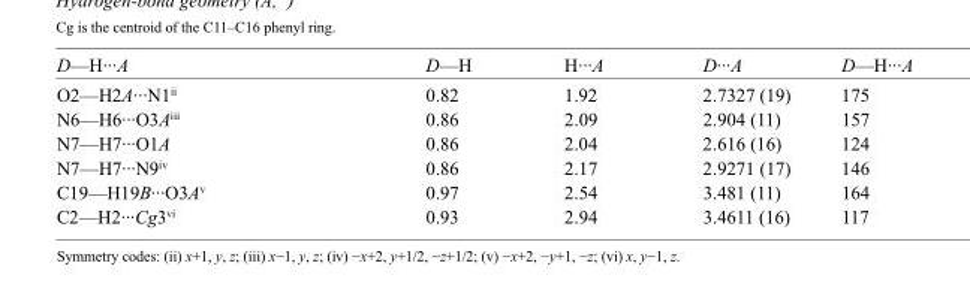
<table><tbody><tr><td>D—H···A</td><td>D—H</td><td>H···A</td><td>D···A</td><td>D—H···A</td></tr><tr><td>O2—H2A···N1<sup>ii</sup></td><td>0.82</td><td>1.92</td><td>2.7327 (19)</td><td>175</td></tr><tr><td>N6—H6···O3A<sup>iii</sup></td><td>0.86</td><td>2.09</td><td>2.904 (11)</td><td>157</td></tr><tr><td>N7—H7···O1A</td><td>0.86</td><td>2.04</td><td>2.616 (16)</td><td>124</td></tr><tr><td>N7—H7···N9<sup>iv</sup></td><td>0.86</td><td>2.17</td><td>2.9271 (17)</td><td>146</td></tr><tr><td>C19—H19B···O3A<sup>v</sup></td><td>0.97</td><td>2.54</td><td>3.481 (11)</td><td>164</td></tr><tr><td>C2—H2···Cg3<sup>vi</sup></td><td>0.93</td><td>2.94</td><td>3.4611 (16)</td><td>117</td></tr></tbody></table>